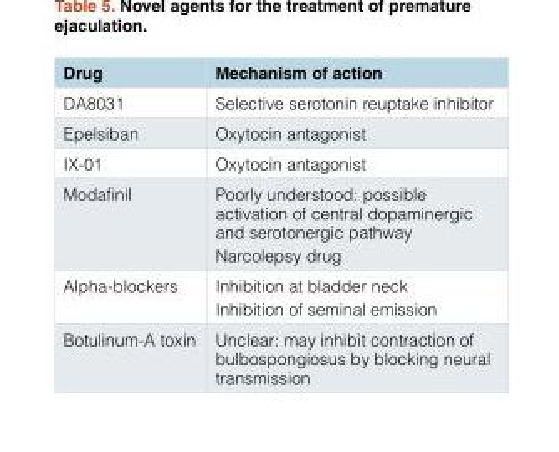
<table><thead><tr><td>Drug</td><td>Mechanism of action</td></tr></thead><tbody><tr><td>DA8031</td><td>Selective serotonin reuptake inhibitor</td></tr><tr><td>Epelsiban</td><td>Oxytocin antagonist</td></tr><tr><td>IX-01</td><td>Oxytocin antagonist</td></tr><tr><td>Modafinil</td><td>Poorly understood: possible activation of central dopaminergic and serotonergic pathway Narcolepsy drug</td></tr><tr><td>Alpha-blockers</td><td>Inhibition at bladder neck Inhibition of seminal emission</td></tr><tr><td>Botulinum-A toxin</td><td>Unclear: may inhibit contraction of bulbospongiosus by blocking neural transmission</td></tr></tbody></table>